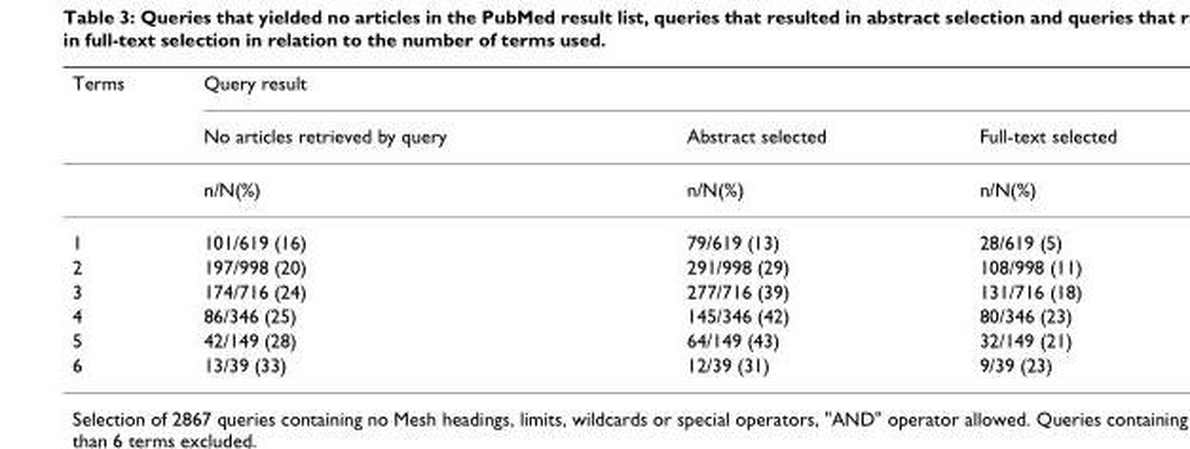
<table><thead><tr><td rowspan="2">Terms</td><td colspan="3">Query result</td></tr><tr><td>No articles retrieved by query</td><td>Abstract selected</td><td>Full-text selected</td></tr></thead><tbody><tr><td></td><td>n/N(%)</td><td>n/N(%)</td><td>n/N(%)</td></tr><tr><td>1</td><td>101/619 (16)</td><td>79/619 (13)</td><td>28/619 (5)</td></tr><tr><td>2</td><td>197/998 (20)</td><td>291/998 (29)</td><td>108/998 (11)</td></tr><tr><td>3</td><td>174/716 (24)</td><td>277/716 (39)</td><td>131/716 (18)</td></tr><tr><td>4</td><td>86/346 (25)</td><td>145/346 (42)</td><td>80/346 (23)</td></tr><tr><td>5</td><td>42/149 (28)</td><td>64/149 (43)</td><td>32/149 (21)</td></tr><tr><td>6</td><td>13/39 (33)</td><td>12/39 (31)</td><td>9/39 (23)</td></tr></tbody></table>